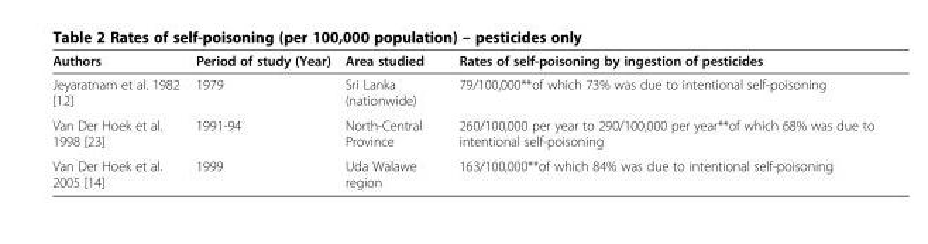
<table><thead><tr><td>Authors</td><td>Period of study (Year)</td><td>Area studied</td><td>Rates of self-poisoning by ingestion of pesticides</td></tr></thead><tbody><tr><td>Jeyaratnam et al. 1982 [12]</td><td>1979</td><td>Sri Lanka (nationwide)</td><td>79/100,000**of which 73% was due to intentional self-poisoning</td></tr><tr><td>Van Der Hoek et al. 1998 [23]</td><td>1991-94</td><td>North-Central Province</td><td>260/100,000 per year to 290/100,000 per year**of which 68% was due to intentional self-poisoning</td></tr><tr><td>Van Der Hoek et al. 2005 [14]</td><td>1999</td><td>Uda Walawe region</td><td>163/100,000**of which 84% was due to intentional self-poisoning</td></tr></tbody></table>